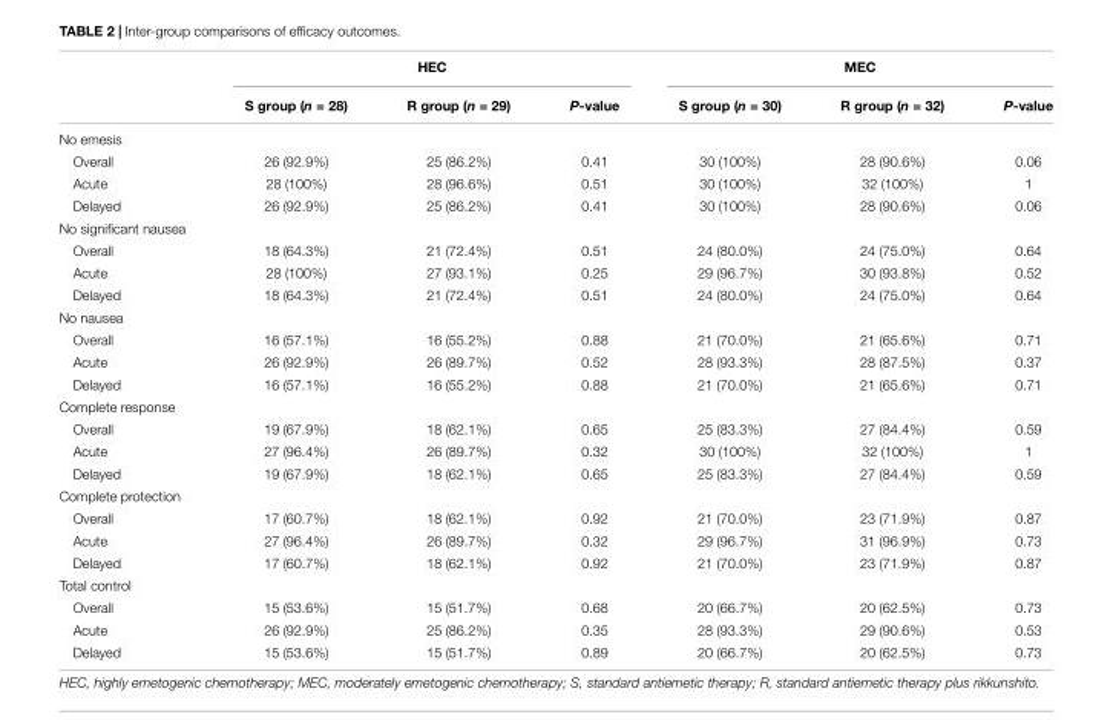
<table><thead><tr><td rowspan="2"></td><td colspan="3">HEC</td><td colspan="3">MEC</td></tr><tr><td>S group (n = 28)</td><td>R group (n = 29)</td><td>P-value</td><td>S group (n = 30)</td><td>R group (n = 32)</td><td>P-value</td></tr></thead><tbody><tr><td colspan="7">No emesis</td></tr><tr><td>Overall</td><td>26 (92.9%)</td><td>25 (86.2%)</td><td>0.41</td><td>30 (100%)</td><td>28 (90.6%)</td><td>0.06</td></tr><tr><td>Acute</td><td>28 (100%)</td><td>28 (96.6%)</td><td>0.51</td><td>30 (100%)</td><td>32 (100%)</td><td>1</td></tr><tr><td>Delayed</td><td>26 (92.9%)</td><td>25 (86.2%)</td><td>0.41</td><td>30 (100%)</td><td>28 (90.6%)</td><td>0.06</td></tr><tr><td colspan="7">No significant nausea</td></tr><tr><td>Overall</td><td>18 (64.3%)</td><td>21 (72.4%)</td><td>0.51</td><td>24 (80.0%)</td><td>24 (75.0%)</td><td>0.64</td></tr><tr><td>Acute</td><td>28 (100%)</td><td>27 (93.1%)</td><td>0.25</td><td>29 (96.7%)</td><td>30 (93.8%)</td><td>0.52</td></tr><tr><td>Delayed</td><td>18 (64.3%)</td><td>21 (72.4%)</td><td>0.51</td><td>24 (80.0%)</td><td>24 (75.0%)</td><td>0.64</td></tr><tr><td colspan="7">No nausea</td></tr><tr><td>Overall</td><td>16 (57.1%)</td><td>16 (55.2%)</td><td>0.88</td><td>21 (70.0%)</td><td>21 (65.6%)</td><td>0.71</td></tr><tr><td>Acute</td><td>26 (92.9%)</td><td>26 (89.7%)</td><td>0.52</td><td>28 (93.3%)</td><td>28 (87.5%)</td><td>0.37</td></tr><tr><td>Delayed</td><td>16 (57.1%)</td><td>16 (55.2%)</td><td>0.88</td><td>21 (70.0%)</td><td>21 (65.6%)</td><td>0.71</td></tr><tr><td colspan="7">Complete response</td></tr><tr><td>Overall</td><td>19 (67.9%)</td><td>18 (62.1%)</td><td>0.65</td><td>25 (83.3%)</td><td>27 (84.4%)</td><td>0.59</td></tr><tr><td>Acute</td><td>27 (96.4%)</td><td>26 (89.7%)</td><td>0.32</td><td>30 (100%)</td><td>32 (100%)</td><td>1</td></tr><tr><td>Delayed</td><td>19 (67.9%)</td><td>18 (62.1%)</td><td>0.65</td><td>25 (83.3%)</td><td>27 (84.4%)</td><td>0.59</td></tr><tr><td colspan="7">Complete protection</td></tr><tr><td>Overall</td><td>17 (60.7%)</td><td>18 (62.1%)</td><td>0.92</td><td>21 (70.0%)</td><td>23 (71.9%)</td><td>0.87</td></tr><tr><td>Acute</td><td>27 (96.4%)</td><td>26 (89.7%)</td><td>0.32</td><td>29 (96.7%)</td><td>31 (96.9%)</td><td>0.73</td></tr><tr><td>Delayed</td><td>17 (60.7%)</td><td>18 (62.1%)</td><td>0.92</td><td>21 (70.0%)</td><td>23 (71.9%)</td><td>0.87</td></tr><tr><td colspan="7">Total control</td></tr><tr><td>Overall</td><td>15 (53.6%)</td><td>15 (51.7%)</td><td>0.68</td><td>20 (66.7%)</td><td>20 (62.5%)</td><td>0.73</td></tr><tr><td>Acute</td><td>26 (92.9%)</td><td>25 (86.2%)</td><td>0.35</td><td>28 (93.3%)</td><td>29 (90.6%)</td><td>0.53</td></tr><tr><td>Delayed</td><td>15 (53.6%)</td><td>15 (51.7%)</td><td>0.89</td><td>20 (66.7%)</td><td>20 (62.5%)</td><td>0.73</td></tr></tbody></table>